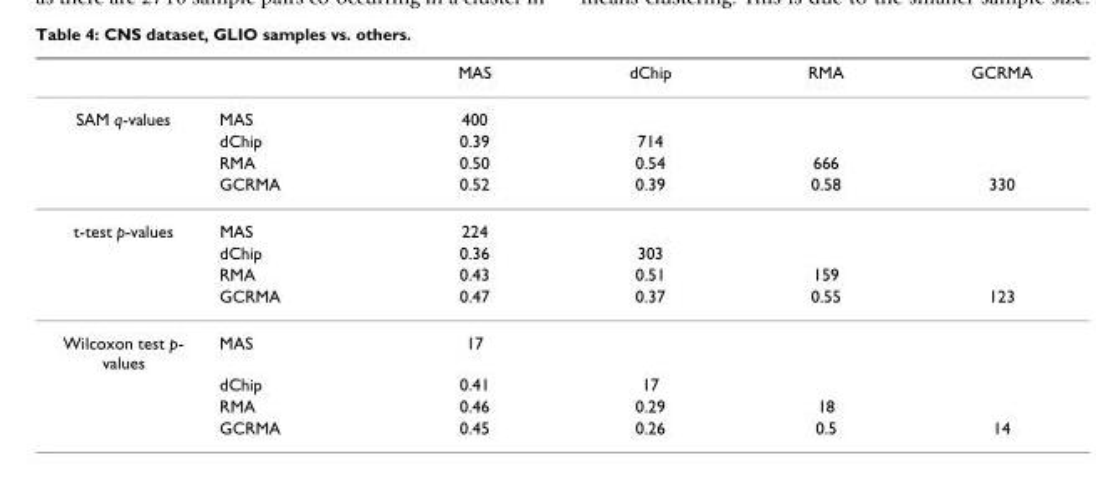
<table><thead><tr><td></td><td></td><td>MAS</td><td>dChip</td><td>RMA</td><td>GCRMA</td></tr></thead><tbody><tr><td rowspan="4">SAM q-values</td><td>MAS</td><td>400</td><td></td><td></td><td></td></tr><tr><td>dChip</td><td>0.39</td><td>714</td><td></td><td></td></tr><tr><td>RMA</td><td>0.50</td><td>0.54</td><td>666</td><td></td></tr><tr><td>GCRMA</td><td>0.52</td><td>0.39</td><td>0.58</td><td>330</td></tr><tr><td rowspan="4">t-test p-values</td><td>MAS</td><td>224</td><td></td><td></td><td></td></tr><tr><td>dChip</td><td>0.36</td><td>303</td><td></td><td></td></tr><tr><td>RMA</td><td>0.43</td><td>0.51</td><td>159</td><td></td></tr><tr><td>GCRMA</td><td>0.47</td><td>0.37</td><td>0.55</td><td>123</td></tr><tr><td rowspan="4">Wilcoxon test p- values</td><td>MAS</td><td>17</td><td></td><td></td><td></td></tr><tr><td>dChip</td><td>0.41</td><td>17</td><td></td><td></td></tr><tr><td>RMA</td><td>0.46</td><td>0.29</td><td>18</td><td></td></tr><tr><td>GCRMA</td><td>0.45</td><td>0.26</td><td>0.5</td><td>14</td></tr></tbody></table>